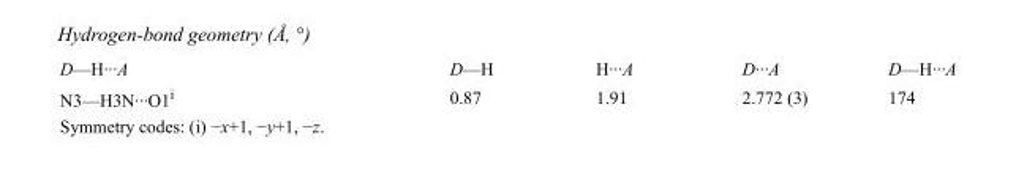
<table><tbody><tr><td>D—H···A</td><td>D—H</td><td>H···A</td><td>D···A</td><td>D—H···A</td></tr><tr><td>N3—H3N···O1<sup>i</sup></td><td>0.87</td><td>1.91</td><td>2.772 (3)</td><td>174</td></tr></tbody></table>